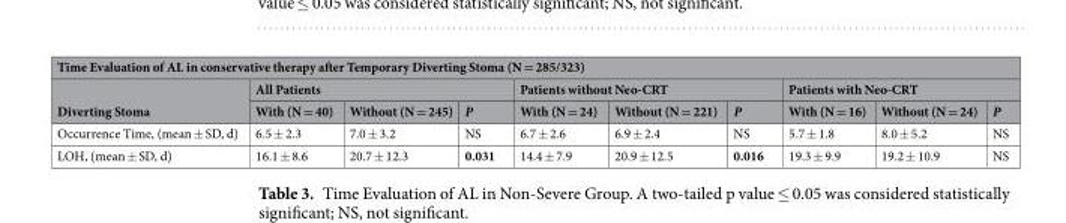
<table><thead><tr><td colspan="10">Time Evaluation of AL in conservative therapy after Temporary Diverting Stoma (N = 285/323)</td></tr><tr><td rowspan="2">Diverting Stoma</td><td colspan="3">All Patients</td><td colspan="3">Patients without Neo-CRT</td><td colspan="3">Patients with Neo-CRT</td></tr><tr><td>With (N = 40)</td><td>Without (N = 245)</td><td>P</td><td>With (N = 24)</td><td>Without (N = 221)</td><td>P</td><td>With (N = 16)</td><td>Without (N = 24)</td><td>P</td></tr></thead><tbody><tr><td>Occurrence Time, (mean ± SD, d)</td><td>6.5 ± 2.3</td><td>7.0 ± 3.2</td><td>NS</td><td>6.7 ± 2.6</td><td>6.9 ± 2.4</td><td>NS</td><td>5.7 ± 1.8</td><td>8.0 ± 5.2</td><td>NS</td></tr><tr><td>LOH, (mean ± SD, d)</td><td>16.1 ± 8.6</td><td>20.7 ± 12.3</td><td>0.031</td><td>14.4 ± 7.9</td><td>20.9 ± 12.5</td><td>0.016</td><td>19.3 ± 9.9</td><td>19.2 ± 10.9</td><td>NS</td></tr></tbody></table>